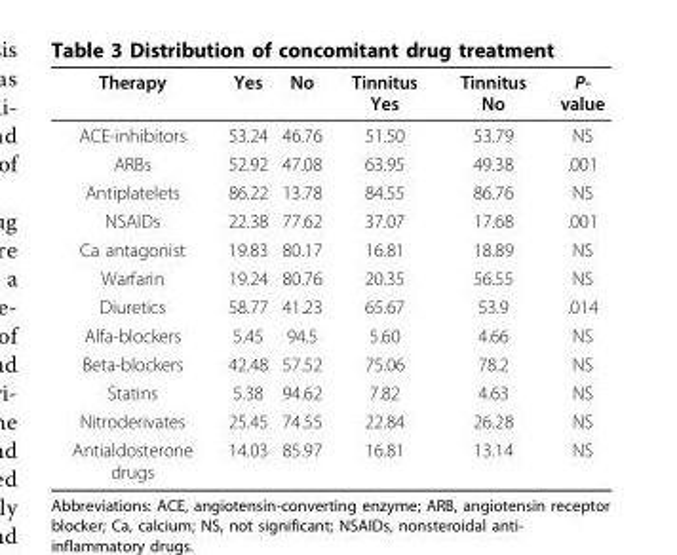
<table><thead><tr><td>Therapy</td><td>Yes</td><td>No</td><td>Tinnitus Yes</td><td>Tinnitus No</td><td>P- value</td></tr></thead><tbody><tr><td>ACE-inhibitors</td><td>53.24</td><td>46.76</td><td>51.50</td><td>53.79</td><td>NS</td></tr><tr><td>ARBs</td><td>52.92</td><td>47.08</td><td>63.95</td><td>49.38</td><td>.001</td></tr><tr><td>Antiplatelets</td><td>86.22</td><td>13.78</td><td>84.55</td><td>86.76</td><td>NS</td></tr><tr><td>NSAIDs</td><td>22.38</td><td>77.62</td><td>37.07</td><td>17.68</td><td>.001</td></tr><tr><td>Ca antagonist</td><td>19.83</td><td>80.17</td><td>16.81</td><td>18.89</td><td>NS</td></tr><tr><td>Warfarin</td><td>19.24</td><td>80.76</td><td>20.35</td><td>56.55</td><td>NS</td></tr><tr><td>Diuretics</td><td>58.77</td><td>41.23</td><td>65.67</td><td>53.9</td><td>.014</td></tr><tr><td>Alfa-blockers</td><td>5.45</td><td>94.5</td><td>5.60</td><td>4.66</td><td>NS</td></tr><tr><td>Beta-blockers</td><td>42.48</td><td>57.52</td><td>75.06</td><td>78.2</td><td>NS</td></tr><tr><td>Statins</td><td>5.38</td><td>94.62</td><td>7.82</td><td>4.63</td><td>NS</td></tr><tr><td>Nitroderivates</td><td>25.45</td><td>74.55</td><td>22.84</td><td>26.28</td><td>NS</td></tr><tr><td>Antialdosterone drugs</td><td>14.03</td><td>85.97</td><td>16.81</td><td>13.14</td><td>NS</td></tr></tbody></table>